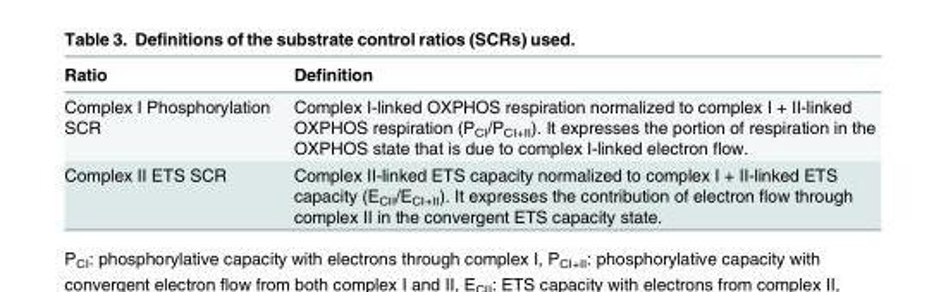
<table><thead><tr><td>Ratio</td><td>Definition</td></tr></thead><tbody><tr><td>Complex I Phosphorylation SCR</td><td>Complex I-linked OXPHOS respiration normalized to complex I + II-linked OXPHOS respiration (P<sub>CI</sub>/P<sub>CI+II</sub>). It expresses the portion of respiration in the OXPHOS state that is due to complex I-linked electron flow.</td></tr><tr><td>Complex II ETS SCR</td><td>Complex II-linked ETS capacity normalized to complex I + II-linked ETS capacity (E<sub>CII</sub>/E<sub>CI+II</sub>). It expresses the contribution of electron flow through complex II in the convergent ETS capacity state.</td></tr></tbody></table>